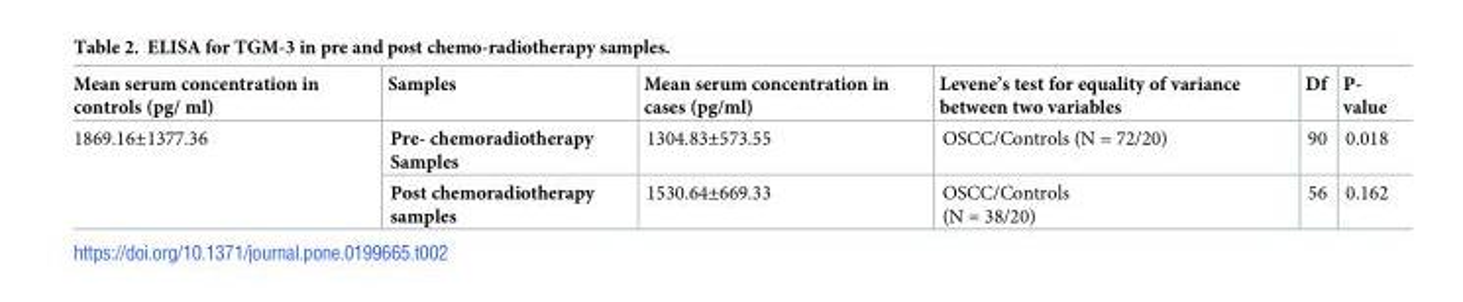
<table><thead><tr><td>Mean serum concentration in controls (pg/ ml)</td><td>Samples</td><td>Mean serum concentration in cases (pg/ml)</td><td>Levene’s test for equality of variance between two variables</td><td>Df</td><td>P- value</td></tr></thead><tbody><tr><td rowspan="2">1869.16±1377.36</td><td>Pre- chemoradiotherapy Samples</td><td>1304.83±573.55</td><td>OSCC/Controls (N = 72/20)</td><td>90</td><td>0.018</td></tr><tr><td>Post chemoradiotherapy samples</td><td>1530.64±669.33</td><td>OSCC/Controls (N = 38/20)</td><td>56</td><td>0.162</td></tr></tbody></table>